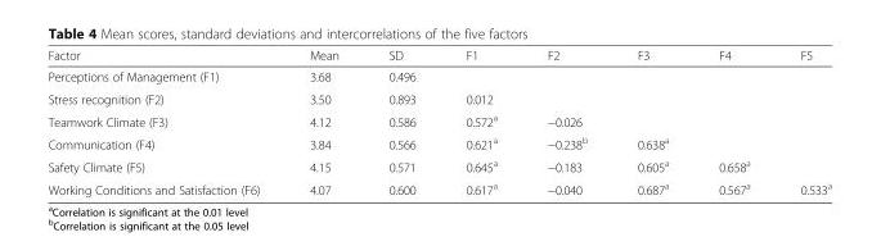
<table><thead><tr><td>Factor</td><td>Mean</td><td>SD</td><td>F1</td><td>F2</td><td>F3</td><td>F4</td><td>F5</td></tr></thead><tbody><tr><td>Perceptions of Management (F1)</td><td>3.68</td><td>0.496</td><td></td><td></td><td></td><td></td><td></td></tr><tr><td>Stress recognition (F2)</td><td>3.50</td><td>0.893</td><td>0.012</td><td></td><td></td><td></td><td></td></tr><tr><td>Teamwork Climate (F3)</td><td>4.12</td><td>0.586</td><td>0.572<sup>a</sup></td><td>−0.026</td><td></td><td></td><td></td></tr><tr><td>Communication (F4)</td><td>3.84</td><td>0.566</td><td>0.621<sup>a</sup></td><td>−0.238<sup>b</sup></td><td>0.638<sup>a</sup></td><td></td><td></td></tr><tr><td>Safety Climate (F5)</td><td>4.15</td><td>0.571</td><td>0.645<sup>a</sup></td><td>−0.183</td><td>0.605<sup>a</sup></td><td>0.658<sup>a</sup></td><td></td></tr><tr><td>Working Conditions and Satisfaction (F6)</td><td>4.07</td><td>0.600</td><td>0.617<sup>a</sup></td><td>−0.040</td><td>0.687<sup>a</sup></td><td>0.567<sup>a</sup></td><td>0.533<sup>a</sup></td></tr></tbody></table>